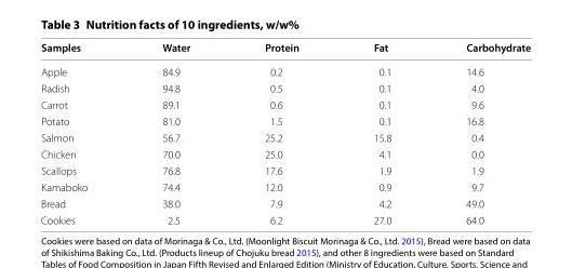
<table><thead><tr><td>Samples</td><td>Water</td><td>Protein</td><td>Fat</td><td>Carbohydrate</td></tr></thead><tbody><tr><td>Apple</td><td>84.9</td><td>0.2</td><td>0.1</td><td>14.6</td></tr><tr><td>Radish</td><td>94.8</td><td>0.5</td><td>0.1</td><td>4.0</td></tr><tr><td>Carrot</td><td>89.1</td><td>0.6</td><td>0.1</td><td>9.6</td></tr><tr><td>Potato</td><td>81.0</td><td>1.5</td><td>0.1</td><td>16.8</td></tr><tr><td>Salmon</td><td>56.7</td><td>25.2</td><td>15.8</td><td>0.4</td></tr><tr><td>Chicken</td><td>70.0</td><td>25.0</td><td>4.1</td><td>0.0</td></tr><tr><td>Scallops</td><td>76.8</td><td>17.6</td><td>1.9</td><td>1.9</td></tr><tr><td>Kamaboko</td><td>74.4</td><td>12.0</td><td>0.9</td><td>9.7</td></tr><tr><td>Bread</td><td>38.0</td><td>7.9</td><td>4.2</td><td>49.0</td></tr><tr><td>Cookies</td><td>2.5</td><td>6.2</td><td>27.0</td><td>64.0</td></tr></tbody></table>